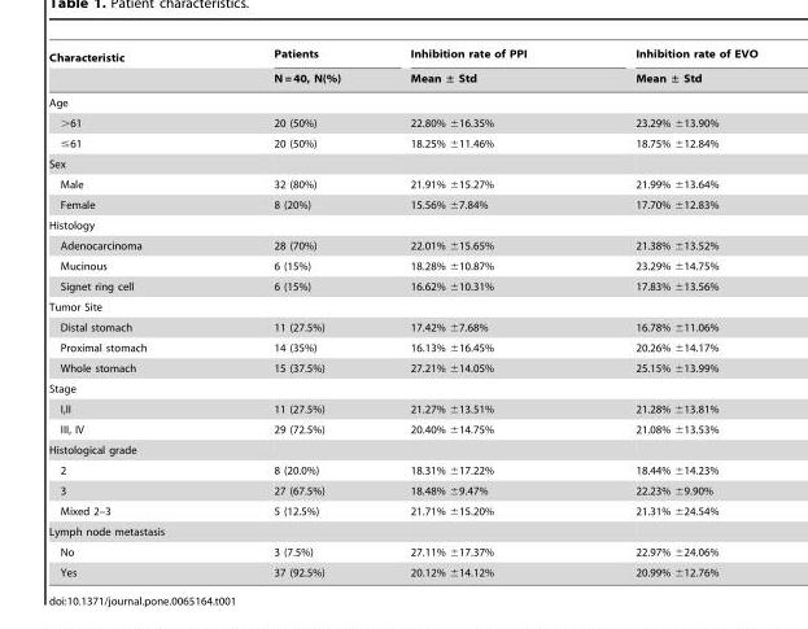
<table><thead><tr><td rowspan="2">Characteristic</td><td rowspan="2">Patients N = 40, N(%)</td><td rowspan="2">Inhibition rate of PPI Mean ± Std</td><td rowspan="2">Inhibition rate of EVO Mean ± Std</td></tr><tr></tr></thead><tbody><tr><td colspan="4">Age</td></tr><tr><td>&gt;61</td><td>20 (50%)</td><td>22.80% ±16.35%</td><td>23.29% ±13.90%</td></tr><tr><td>≤61</td><td>20 (50%)</td><td>18.25% ±11.46%</td><td>18.75% ±12.84%</td></tr><tr><td colspan="4">Sex</td></tr><tr><td>Male</td><td>32 (80%)</td><td>21.91% ±15.27%</td><td>21.99% ±13.64%</td></tr><tr><td>Female</td><td>8 (20%)</td><td>15.56% ±7.84%</td><td>17.70% ±12.83%</td></tr><tr><td colspan="4">Histology</td></tr><tr><td>Adenocarcinoma</td><td>28 (70%)</td><td>22.01% ±15.65%</td><td>21.38% ±13.52%</td></tr><tr><td>Mucinous</td><td>6 (15%)</td><td>18.28% ±10.87%</td><td>23.29% ±14.75%</td></tr><tr><td>Signet ring cell</td><td>6 (15%)</td><td>16.62% ±10.31%</td><td>17.83% ±13.56%</td></tr><tr><td colspan="4">Tumor Site</td></tr><tr><td>Distal stomach</td><td>11 (27.5%)</td><td>17.42% ±7.68%</td><td>16.78% ±11.06%</td></tr><tr><td>Proximal stomach</td><td>14 (35%)</td><td>16.13% ±16.45%</td><td>20.26% ±14.17%</td></tr><tr><td>Whole stomach</td><td>15 (37.5%)</td><td>27.21% ±14.05%</td><td>25.15% ±13.99%</td></tr><tr><td colspan="4">Stage</td></tr><tr><td>I,II</td><td>11 (27.5%)</td><td>21.27% ±13.51%</td><td>21.28% ±13.81%</td></tr><tr><td>III, IV</td><td>29 (72.5%)</td><td>20.40% ±14.75%</td><td>21.08% ±13.53%</td></tr><tr><td colspan="4">Histological grade</td></tr><tr><td>2</td><td>8 (20.0%)</td><td>18.31% ±17.22%</td><td>18.44% ±14.23%</td></tr><tr><td>3</td><td>27 (67.5%)</td><td>18.48% ±9.47%</td><td>22.23% ±9.90%</td></tr><tr><td>Mixed 2–3</td><td>5 (12.5%)</td><td>21.71% ±15.20%</td><td>21.31% ±24.54%</td></tr><tr><td colspan="4">Lymph node metastasis</td></tr><tr><td>No</td><td>3 (7.5%)</td><td>27.11% ±17.37%</td><td>22.97% ±24.06%</td></tr><tr><td>Yes</td><td>37 (92.5%)</td><td>20.12% ±14.12%</td><td>20.99% ±12.76%</td></tr></tbody></table>